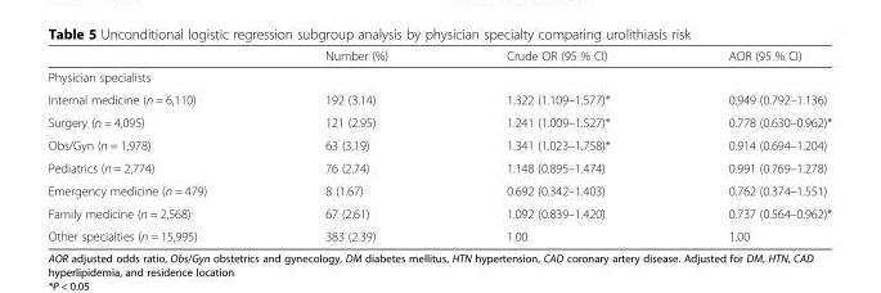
<table><thead><tr><td></td><td>Number (%)</td><td>Crude OR (95 % CI)</td><td>AOR (95 % CI)</td></tr></thead><tbody><tr><td colspan="4">Physician specialists</td></tr><tr><td>Internal medicine (n = 6,110)</td><td>192 (3.14)</td><td>1.322 (1.109–1.577)*</td><td>0.949 (0.792–1.136)</td></tr><tr><td>Surgery (n = 4,095)</td><td>121 (2.95)</td><td>1.241 (1.009–1.527)*</td><td>0.778 (0.630–0.962)*</td></tr><tr><td>Obs/Gyn (n = 1,978)</td><td>63 (3.19)</td><td>1.341 (1.023–1.758)*</td><td>0.914 (0.694–1.204)</td></tr><tr><td>Pediatrics (n = 2,774)</td><td>76 (2.74)</td><td>1.148 (0.895–1.474)</td><td>0.991 (0.769–1.278)</td></tr><tr><td>Emergency medicine (n = 479)</td><td>8 (1.67)</td><td>0.692 (0.342–1.403)</td><td>0.762 (0.374–1.551)</td></tr><tr><td>Family medicine (n = 2,568)</td><td>67 (2.61)</td><td>1.092 (0.839–1.420)</td><td>0.737 (0.564–0.962)*</td></tr><tr><td>Other specialties (n = 15,995)</td><td>383 (2.39)</td><td>1.00</td><td>1.00</td></tr></tbody></table>